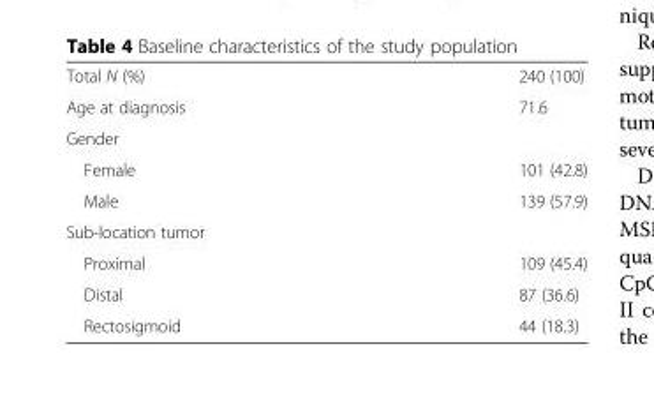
<table><tbody><tr><td>Total N (%)</td><td>240 (100)</td></tr><tr><td>Age at diagnosis</td><td>71.6</td></tr><tr><td colspan="2">Gender</td></tr><tr><td>Female</td><td>101 (42.8)</td></tr><tr><td>Male</td><td>139 (57.9)</td></tr><tr><td colspan="2">Sub-location tumor</td></tr><tr><td>Proximal</td><td>109 (45.4)</td></tr><tr><td>Distal</td><td>87 (36.6)</td></tr><tr><td>Rectosigmoid</td><td>44 (18.3)</td></tr></tbody></table>